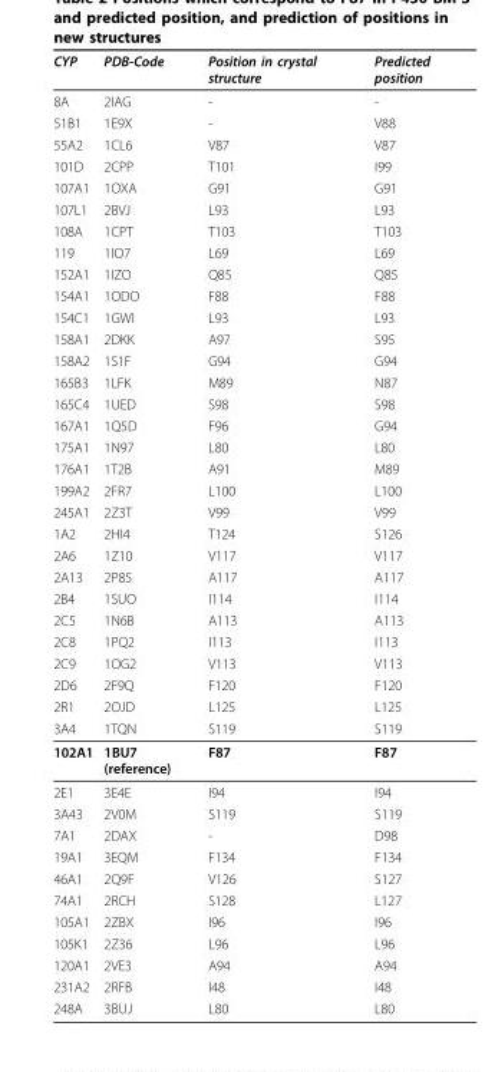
<table><thead><tr><td>CYP</td><td>PDB-Code</td><td>Position in crystal structure</td><td>Predicted position</td></tr></thead><tbody><tr><td>8A</td><td>2IAG</td><td>-</td><td>-</td></tr><tr><td>51B1</td><td>1E9X</td><td>-</td><td>V88</td></tr><tr><td>55A2</td><td>1CL6</td><td>V87</td><td>V87</td></tr><tr><td>101D</td><td>2CPP</td><td>T101</td><td>I99</td></tr><tr><td>107A1</td><td>1OXA</td><td>G91</td><td>G91</td></tr><tr><td>107L1</td><td>2BVJ</td><td>L93</td><td>L93</td></tr><tr><td>108A</td><td>1CPT</td><td>T103</td><td>T103</td></tr><tr><td>119</td><td>1IO7</td><td>L69</td><td>L69</td></tr><tr><td>152A1</td><td>1IZO</td><td>Q85</td><td>Q85</td></tr><tr><td>154A1</td><td>1ODO</td><td>F88</td><td>F88</td></tr><tr><td>154C1</td><td>1GWI</td><td>L93</td><td>L93</td></tr><tr><td>158A1</td><td>2DKK</td><td>A97</td><td>S95</td></tr><tr><td>158A2</td><td>1S1F</td><td>G94</td><td>G94</td></tr><tr><td>165B3</td><td>1LFK</td><td>M89</td><td>N87</td></tr><tr><td>165C4</td><td>1UED</td><td>S98</td><td>S98</td></tr><tr><td>167A1</td><td>1Q5D</td><td>F96</td><td>G94</td></tr><tr><td>175A1</td><td>1N97</td><td>L80</td><td>L80</td></tr><tr><td>176A1</td><td>1T2B</td><td>A91</td><td>M89</td></tr><tr><td>199A2</td><td>2FR7</td><td>L100</td><td>L100</td></tr><tr><td>245A1</td><td>2Z3T</td><td>V99</td><td>V99</td></tr><tr><td>1A2</td><td>2HI4</td><td>T124</td><td>S126</td></tr><tr><td>2A6</td><td>1Z10</td><td>V117</td><td>V117</td></tr><tr><td>2A13</td><td>2P85</td><td>A117</td><td>A117</td></tr><tr><td>2B4</td><td>1SUO</td><td>I114</td><td>I114</td></tr><tr><td>2C5</td><td>1N6B</td><td>A113</td><td>A113</td></tr><tr><td>2C8</td><td>1PQ2</td><td>I113</td><td>I113</td></tr><tr><td>2C9</td><td>1OG2</td><td>V113</td><td>V113</td></tr><tr><td>2D6</td><td>2F9Q</td><td>F120</td><td>F120</td></tr><tr><td>2R1</td><td>2OJD</td><td>L125</td><td>L125</td></tr><tr><td>3A4</td><td>1TQN</td><td>S119</td><td>S119</td></tr><tr><td>102A1</td><td>1BU7 (reference)</td><td>F87</td><td>F87</td></tr><tr><td>2E1</td><td>3E4E</td><td>I94</td><td>I94</td></tr><tr><td>3A43</td><td>2V0M</td><td>S119</td><td>S119</td></tr><tr><td>7A1</td><td>2DAX</td><td>-</td><td>D98</td></tr><tr><td>19A1</td><td>3EQM</td><td>F134</td><td>F134</td></tr><tr><td>46A1</td><td>2Q9F</td><td>V126</td><td>S127</td></tr><tr><td>74A1</td><td>2RCH</td><td>S128</td><td>L127</td></tr><tr><td>105A1</td><td>2ZBX</td><td>I96</td><td>I96</td></tr><tr><td>105K1</td><td>2Z36</td><td>L96</td><td>L96</td></tr><tr><td>120A1</td><td>2VE3</td><td>A94</td><td>A94</td></tr><tr><td>231A2</td><td>2RFB</td><td>I48</td><td>I48</td></tr><tr><td>248A</td><td>3BUJ</td><td>L80</td><td>L80</td></tr></tbody></table>